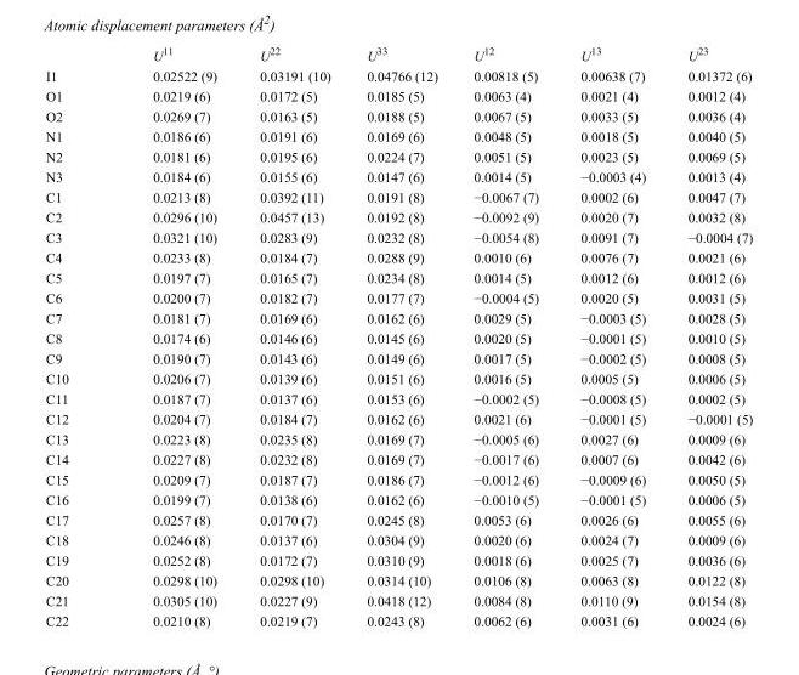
<table><thead><tr><td></td><td>U<sup>11</sup></td><td>U<sup>22</sup></td><td>U<sup>33</sup></td><td>U<sup>12</sup></td><td>U<sup>13</sup></td><td>U<sup>23</sup></td></tr></thead><tbody><tr><td>I1</td><td>0.02522 (9)</td><td>0.03191 (10)</td><td>0.04766 (12)</td><td>0.00818 (5)</td><td>0.00638 (7)</td><td>0.01372 (6)</td></tr><tr><td>O1</td><td>0.0219 (6)</td><td>0.0172 (5)</td><td>0.0185 (5)</td><td>0.0063 (4)</td><td>0.0021 (4)</td><td>0.0012 (4)</td></tr><tr><td>O2</td><td>0.0269 (7)</td><td>0.0163 (5)</td><td>0.0188 (5)</td><td>0.0067 (5)</td><td>0.0033 (5)</td><td>0.0036 (4)</td></tr><tr><td>N1</td><td>0.0186 (6)</td><td>0.0191 (6)</td><td>0.0169 (6)</td><td>0.0048 (5)</td><td>0.0018 (5)</td><td>0.0040 (5)</td></tr><tr><td>N2</td><td>0.0181 (6)</td><td>0.0195 (6)</td><td>0.0224 (7)</td><td>0.0051 (5)</td><td>0.0023 (5)</td><td>0.0069 (5)</td></tr><tr><td>N3</td><td>0.0184 (6)</td><td>0.0155 (6)</td><td>0.0147 (6)</td><td>0.0014 (5)</td><td>−0.0003 (4)</td><td>0.0013 (4)</td></tr><tr><td>C1</td><td>0.0213 (8)</td><td>0.0392 (11)</td><td>0.0191 (8)</td><td>−0.0067 (7)</td><td>0.0002 (6)</td><td>0.0047 (7)</td></tr><tr><td>C2</td><td>0.0296 (10)</td><td>0.0457 (13)</td><td>0.0192 (8)</td><td>−0.0092 (9)</td><td>0.0020 (7)</td><td>0.0032 (8)</td></tr><tr><td>C3</td><td>0.0321 (10)</td><td>0.0283 (9)</td><td>0.0232 (8)</td><td>−0.0054 (8)</td><td>0.0091 (7)</td><td>−0.0004 (7)</td></tr><tr><td>C4</td><td>0.0233 (8)</td><td>0.0184 (7)</td><td>0.0288 (9)</td><td>0.0010 (6)</td><td>0.0076 (7)</td><td>0.0021 (6)</td></tr><tr><td>C5</td><td>0.0197 (7)</td><td>0.0165 (7)</td><td>0.0234 (8)</td><td>0.0014 (5)</td><td>0.0012 (6)</td><td>0.0012 (6)</td></tr><tr><td>C6</td><td>0.0200 (7)</td><td>0.0182 (7)</td><td>0.0177 (7)</td><td>−0.0004 (5)</td><td>0.0020 (5)</td><td>0.0031 (5)</td></tr><tr><td>C7</td><td>0.0181 (7)</td><td>0.0169 (6)</td><td>0.0162 (6)</td><td>0.0029 (5)</td><td>−0.0003 (5)</td><td>0.0028 (5)</td></tr><tr><td>C8</td><td>0.0174 (6)</td><td>0.0146 (6)</td><td>0.0145 (6)</td><td>0.0020 (5)</td><td>−0.0001 (5)</td><td>0.0010 (5)</td></tr><tr><td>C9</td><td>0.0190 (7)</td><td>0.0143 (6)</td><td>0.0149 (6)</td><td>0.0017 (5)</td><td>−0.0002 (5)</td><td>0.0008 (5)</td></tr><tr><td>C10</td><td>0.0206 (7)</td><td>0.0139 (6)</td><td>0.0151 (6)</td><td>0.0016 (5)</td><td>0.0005 (5)</td><td>0.0006 (5)</td></tr><tr><td>C11</td><td>0.0187 (7)</td><td>0.0137 (6)</td><td>0.0153 (6)</td><td>−0.0002 (5)</td><td>−0.0008 (5)</td><td>0.0002 (5)</td></tr><tr><td>C12</td><td>0.0204 (7)</td><td>0.0184 (7)</td><td>0.0162 (6)</td><td>0.0021 (6)</td><td>−0.0001 (5)</td><td>−0.0001 (5)</td></tr><tr><td>C13</td><td>0.0223 (8)</td><td>0.0235 (8)</td><td>0.0169 (7)</td><td>−0.0005 (6)</td><td>0.0027 (6)</td><td>0.0009 (6)</td></tr><tr><td>C14</td><td>0.0227 (8)</td><td>0.0232 (8)</td><td>0.0169 (7)</td><td>−0.0017 (6)</td><td>0.0007 (6)</td><td>0.0042 (6)</td></tr><tr><td>C15</td><td>0.0209 (7)</td><td>0.0187 (7)</td><td>0.0186 (7)</td><td>−0.0012 (6)</td><td>−0.0009 (6)</td><td>0.0050 (5)</td></tr><tr><td>C16</td><td>0.0199 (7)</td><td>0.0138 (6)</td><td>0.0162 (6)</td><td>−0.0010 (5)</td><td>−0.0001 (5)</td><td>0.0006 (5)</td></tr><tr><td>C17</td><td>0.0257 (8)</td><td>0.0170 (7)</td><td>0.0245 (8)</td><td>0.0053 (6)</td><td>0.0026 (6)</td><td>0.0055 (6)</td></tr><tr><td>C18</td><td>0.0246 (8)</td><td>0.0137 (6)</td><td>0.0304 (9)</td><td>0.0020 (6)</td><td>0.0024 (7)</td><td>0.0009 (6)</td></tr><tr><td>C19</td><td>0.0252 (8)</td><td>0.0172 (7)</td><td>0.0310 (9)</td><td>0.0018 (6)</td><td>0.0025 (7)</td><td>0.0036 (6)</td></tr><tr><td>C20</td><td>0.0298 (10)</td><td>0.0298 (10)</td><td>0.0314 (10)</td><td>0.0106 (8)</td><td>0.0063 (8)</td><td>0.0122 (8)</td></tr><tr><td>C21</td><td>0.0305 (10)</td><td>0.0227 (9)</td><td>0.0418 (12)</td><td>0.0084 (8)</td><td>0.0110 (9)</td><td>0.0154 (8)</td></tr><tr><td>C22</td><td>0.0210 (8)</td><td>0.0219 (7)</td><td>0.0243 (8)</td><td>0.0062 (6)</td><td>0.0031 (6)</td><td>0.0024 (6)</td></tr></tbody></table>